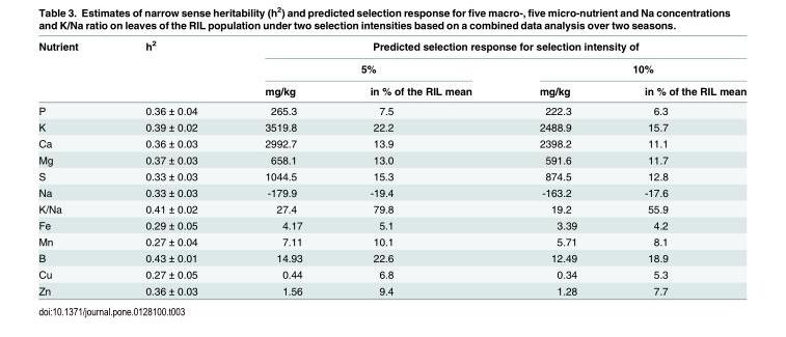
<table><thead><tr><td rowspan="3">Nutrient</td><td rowspan="3">h<sup>2</sup></td><td colspan="4">Predicted selection response for selection intensity of</td></tr><tr><td colspan="2">5%</td><td colspan="2">10%</td></tr><tr><td>mg/kg</td><td>in % of the RIL mean</td><td>mg/kg</td><td>in % of the RIL mean</td></tr></thead><tbody><tr><td>P</td><td>0.36 ± 0.04</td><td>265.3</td><td>7.5</td><td>222.3</td><td>6.3</td></tr><tr><td>K</td><td>0.39 ± 0.02</td><td>3519.8</td><td>22.2</td><td>2488.9</td><td>15.7</td></tr><tr><td>Ca</td><td>0.36 ± 0.03</td><td>2992.7</td><td>13.9</td><td>2398.2</td><td>11.1</td></tr><tr><td>Mg</td><td>0.37 ± 0.03</td><td>658.1</td><td>13.0</td><td>591.6</td><td>11.7</td></tr><tr><td>S</td><td>0.33 ± 0.03</td><td>1044.5</td><td>15.3</td><td>874.5</td><td>12.8</td></tr><tr><td>Na</td><td>0.33 ± 0.03</td><td>-179.9</td><td>-19.4</td><td>-163.2</td><td>-17.6</td></tr><tr><td>K/Na</td><td>0.41 ± 0.02</td><td>27.4</td><td>79.8</td><td>19.2</td><td>55.9</td></tr><tr><td>Fe</td><td>0.29 ± 0.05</td><td>4.17</td><td>5.1</td><td>3.39</td><td>4.2</td></tr><tr><td>Mn</td><td>0.27 ± 0.04</td><td>7.11</td><td>10.1</td><td>5.71</td><td>8.1</td></tr><tr><td>B</td><td>0.43 ± 0.01</td><td>14.93</td><td>22.6</td><td>12.49</td><td>18.9</td></tr><tr><td>Cu</td><td>0.27 ± 0.05</td><td>0.44</td><td>6.8</td><td>0.34</td><td>5.3</td></tr><tr><td>Zn</td><td>0.36 ± 0.03</td><td>1.56</td><td>9.4</td><td>1.28</td><td>7.7</td></tr></tbody></table>